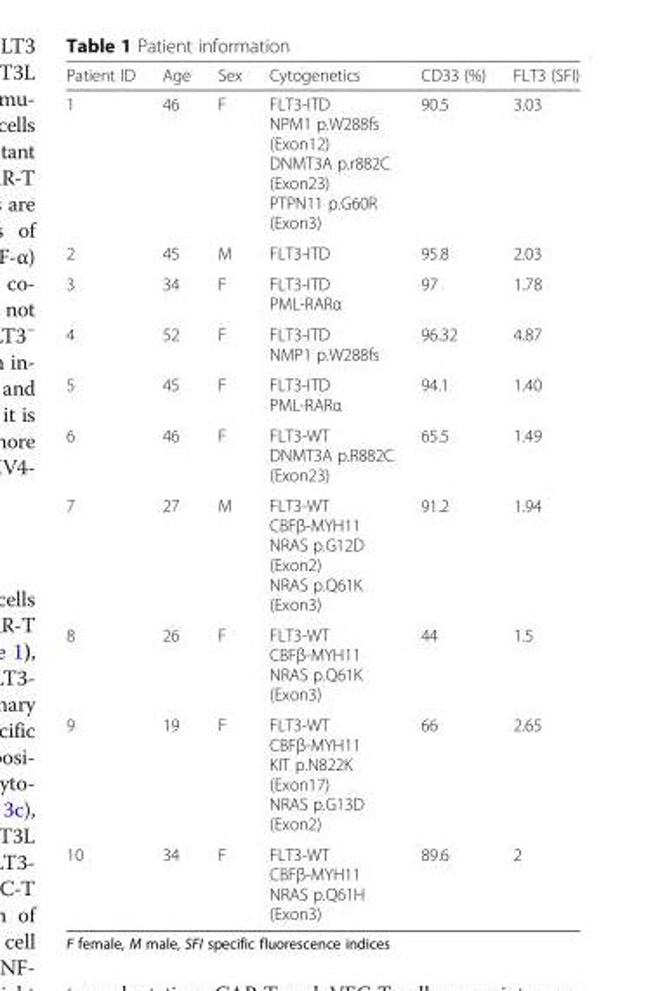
<table><thead><tr><td>Patient ID</td><td>Age</td><td>Sex</td><td>Cytogenetics</td><td>CD33 (%)</td><td>FLT3 (SFI)</td></tr></thead><tbody><tr><td>1</td><td>46</td><td>F</td><td>FLT3-ITD NPM1 p.W288fs (Exon12) DNMT3A p.r882C (Exon23) PTPN11 p.G60R (Exon3)</td><td>90.5</td><td>3.03</td></tr><tr><td>2</td><td>45</td><td>M</td><td>FLT3-ITD</td><td>95.8</td><td>2.03</td></tr><tr><td>3</td><td>34</td><td>F</td><td>FLT3-ITD PML-RARα</td><td>97</td><td>1.78</td></tr><tr><td>4</td><td>52</td><td>F</td><td>FLT3-ITD NMP1 p.W288fs</td><td>96.32</td><td>4.87</td></tr><tr><td>5</td><td>45</td><td>F</td><td>FLT3-ITD PML-RARα</td><td>94.1</td><td>1.40</td></tr><tr><td>6</td><td>46</td><td>F</td><td>FLT3-WT DNMT3A p.R882C (Exon23)</td><td>65.5</td><td>1.49</td></tr><tr><td>7</td><td>27</td><td>M</td><td>FLT3-WT CBFβ-MYH11 NRAS p.G12D (Exon2) NRAS p.Q61K (Exon3)</td><td>91.2</td><td>1.94</td></tr><tr><td>8</td><td>26</td><td>F</td><td>FLT3-WT CBFβ-MYH11 NRAS p.Q61K (Exon3)</td><td>44</td><td>1.5</td></tr><tr><td>9</td><td>19</td><td>F</td><td>FLT3-WT CBFβ-MYH11 KIT p.N822K (Exon17) NRAS p.G13D (Exon2)</td><td>66</td><td>2.65</td></tr><tr><td>10</td><td>34</td><td>F</td><td>FLT3-WT CBFβ-MYH11 NRAS p.Q61H (Exon3)</td><td>89.6</td><td>2</td></tr></tbody></table>